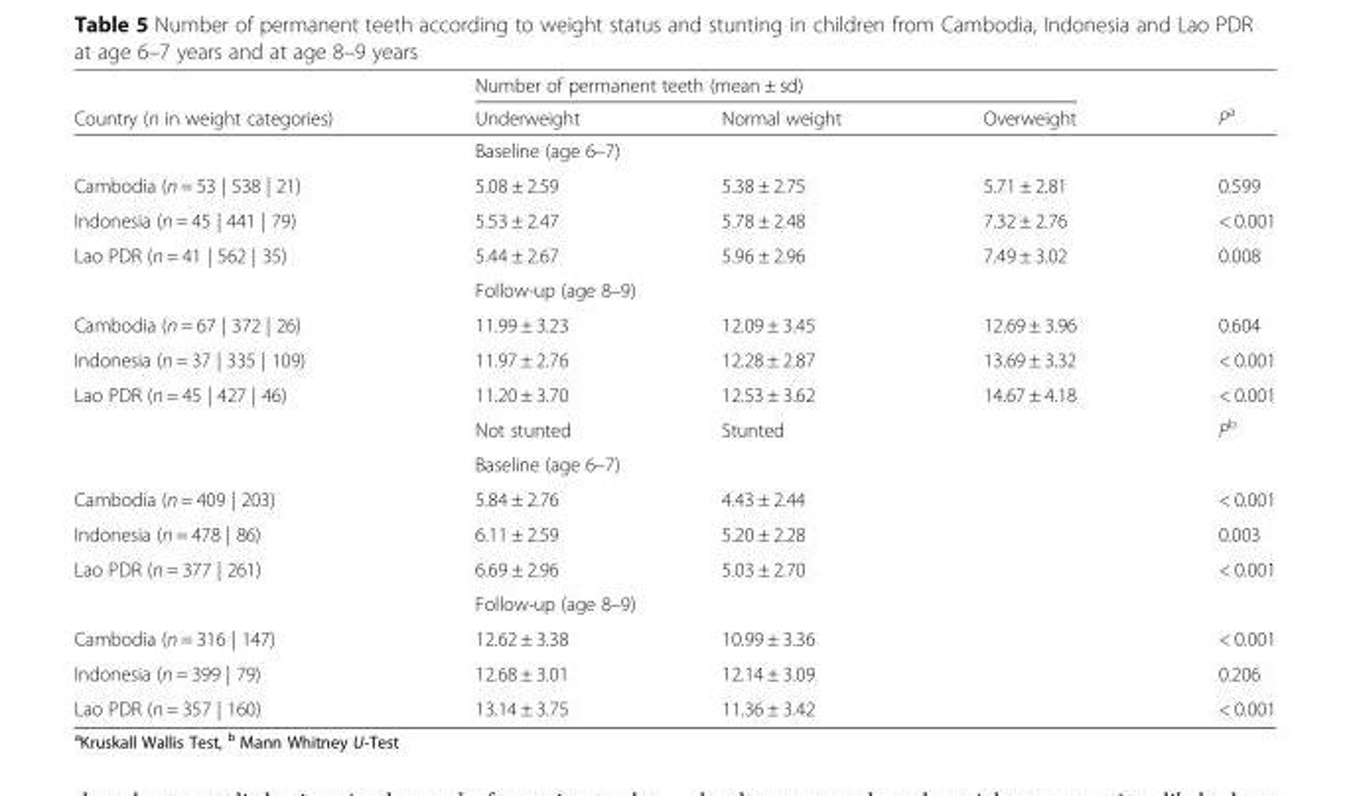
<table><thead><tr><td rowspan="2">Country (n in weight categories)</td><td colspan="3">Number of permanent teeth (mean ± sd)</td><td rowspan="2">P<sup>a</sup></td></tr><tr><td>Underweight</td><td>Normal weight</td><td>Overweight</td></tr></thead><tbody><tr><td></td><td colspan="3">Baseline (age 6–7)</td><td></td></tr><tr><td>Cambodia (n = 53 | 538 | 21)</td><td>5.08 ± 2.59</td><td>5.38 ± 2.75</td><td>5.71 ± 2.81</td><td>0.599</td></tr><tr><td>Indonesia (n = 45 | 441 | 79)</td><td>5.53 ± 2.47</td><td>5.78 ± 2.48</td><td>7.32 ± 2.76</td><td>&lt; 0.001</td></tr><tr><td rowspan="2">Lao PDR (n = 41 | 562 | 35)</td><td>5.44 ± 2.67</td><td>5.96 ± 2.96</td><td>7.49 ± 3.02</td><td>0.008</td></tr><tr><td colspan="3">Follow-up (age 8–9)</td><td></td></tr><tr><td>Cambodia (n = 67 | 372 | 26)</td><td>11.99 ± 3.23</td><td>12.09 ± 3.45</td><td>12.69 ± 3.96</td><td>0.604</td></tr><tr><td>Indonesia (n = 37 | 335 | 109)</td><td>11.97 ± 2.76</td><td>12.28 ± 2.87</td><td>13.69 ± 3.32</td><td>&lt; 0.001</td></tr><tr><td rowspan="3">Lao PDR (n = 45 | 427 | 46)</td><td>11.20 ± 3.70</td><td>12.53 ± 3.62</td><td>14.67 ± 4.18</td><td>&lt; 0.001</td></tr><tr><td>Not stunted</td><td colspan="2">Stunted</td><td>P<sup>b</sup></td></tr><tr><td colspan="3">Baseline (age 6–7)</td><td></td></tr><tr><td>Cambodia (n = 409 | 203)</td><td>5.84 ± 2.76</td><td colspan="2">4.43 ± 2.44</td><td>&lt; 0.001</td></tr><tr><td>Indonesia (n = 478 | 86)</td><td>6.11 ± 2.59</td><td colspan="2">5.20 ± 2.28</td><td>0.003</td></tr><tr><td rowspan="2">Lao PDR (n = 377 | 261)</td><td>6.69 ± 2.96</td><td colspan="2">5.03 ± 2.70</td><td>&lt; 0.001</td></tr><tr><td colspan="3">Follow-up (age 8–9)</td><td></td></tr><tr><td>Cambodia (n = 316 | 147)</td><td>12.62 ± 3.38</td><td colspan="2">10.99 ± 3.36</td><td>&lt; 0.001</td></tr><tr><td>Indonesia (n = 399 | 79)</td><td>12.68 ± 3.01</td><td colspan="2">12.14 ± 3.09</td><td>0.206</td></tr><tr><td>Lao PDR (n = 357 | 160)</td><td>13.14 ± 3.75</td><td colspan="2">11.36 ± 3.42</td><td>&lt; 0.001</td></tr></tbody></table>